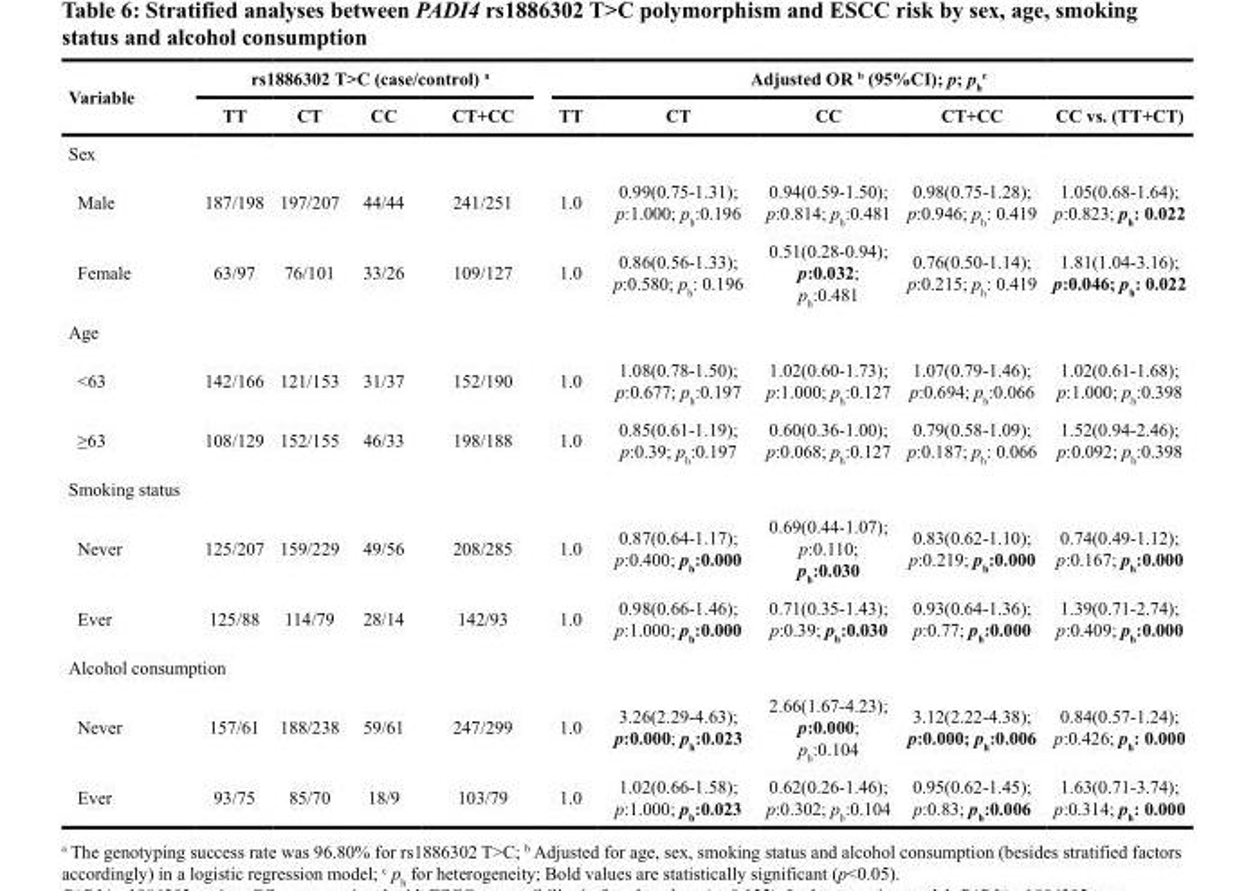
<table><thead><tr><td rowspan="2">Variable</td><td colspan="4">rs1886302 T&gt;C (case/control) <sup>a</sup></td><td colspan="5">Adjusted OR <sup>b</sup> (95%CI); p; p<sub>h</sub> <sup>c</sup></td></tr><tr><td>TT</td><td>CT</td><td>CC</td><td>CT+CC</td><td>TT</td><td>CT</td><td>CC</td><td>CT+CC</td><td>CC vs. (TT+CT)</td></tr></thead><tbody><tr><td colspan="10">Sex</td></tr><tr><td>Male</td><td>187/198</td><td>197/207</td><td>44/44</td><td>241/251</td><td>1.0</td><td>0.99(0.75-1.31); p:1.000; p<sub>h</sub>:0.196</td><td>0.94(0.59-1.50); p:0.814; p<sub>h</sub>:0.481</td><td>0.98(0.75-1.28); p:0.946; p<sub>h</sub>: 0.419</td><td>1.05(0.68-1.64); p:0.823; p<sub>h</sub>: 0.022</td></tr><tr><td>Female</td><td>63/97</td><td>76/101</td><td>33/26</td><td>109/127</td><td>1.0</td><td>0.86(0.56-1.33); p:0.580; p<sub>h</sub>: 0.196</td><td>0.51(0.28-0.94); p:0.032; p<sub>h</sub>:0.481</td><td>0.76(0.50-1.14); p:0.215; p<sub>h</sub>: 0.419</td><td>1.81(1.04-3.16); p:0.046; p<sub>h</sub>: 0.022</td></tr><tr><td colspan="10">Age</td></tr><tr><td>&lt;63</td><td>142/166</td><td>121/153</td><td>31/37</td><td>152/190</td><td>1.0</td><td>1.08(0.78-1.50); p:0.677; p<sub>h</sub>:0.197</td><td>1.02(0.60-1.73); p:1.000; p<sub>h</sub>:0.127</td><td>1.07(0.79-1.46); p:0.694; p<sub>h</sub>:0.066</td><td>1.02(0.61-1.68); p:1.000; p<sub>h</sub>:0.398</td></tr><tr><td>≥63</td><td>108/129</td><td>152/155</td><td>46/33</td><td>198/188</td><td>1.0</td><td>0.85(0.61-1.19); p:0.39; p<sub>h</sub>:0.197</td><td>0.60(0.36-1.00); p:0.068; p<sub>h</sub>:0.127</td><td>0.79(0.58-1.09); p:0.187; p<sub>h</sub>: 0.066</td><td>1.52(0.94-2.46); p:0.092; p<sub>h</sub>:0.398</td></tr><tr><td colspan="10">Smoking status</td></tr><tr><td>Never</td><td>125/207</td><td>159/229</td><td>49/56</td><td>208/285</td><td>1.0</td><td>0.87(0.64-1.17); p:0.400; p<sub>h</sub>:0.000</td><td>0.69(0.44-1.07); p:0.110; p<sub>h</sub>:0.030</td><td>0.83(0.62-1.10); p:0.219; p<sub>h</sub>:0.000</td><td>0.74(0.49-1.12); p:0.167; p<sub>h</sub>:0.000</td></tr><tr><td>Ever</td><td>125/88</td><td>114/79</td><td>28/14</td><td>142/93</td><td>1.0</td><td>0.98(0.66-1.46); p:1.000; p<sub>h</sub>:0.000</td><td>0.71(0.35-1.43); p:0.39; p<sub>h</sub>:0.030</td><td>0.93(0.64-1.36); p:0.77; p<sub>h</sub>:0.000</td><td>1.39(0.71-2.74); p:0.409; p<sub>h</sub>:0.000</td></tr><tr><td colspan="10">Alcohol consumption</td></tr><tr><td>Never</td><td>157/61</td><td>188/238</td><td>59/61</td><td>247/299</td><td>1.0</td><td>3.26(2.29-4.63); p:0.000; p<sub>h</sub>:0.023</td><td>2.66(1.67-4.23); p:0.000; p<sub>h</sub>:0.104</td><td>3.12(2.22-4.38); p:0.000; p<sub>h</sub>:0.006</td><td>0.84(0.57-1.24); p:0.426; p<sub>h</sub>: 0.000</td></tr><tr><td>Ever</td><td>93/75</td><td>85/70</td><td>18/9</td><td>103/79</td><td>1.0</td><td>1.02(0.66-1.58); p:1.000; p<sub>h</sub>:0.023</td><td>0.62(0.26-1.46); p:0.302; p<sub>h</sub>:0.104</td><td>0.95(0.62-1.45); p:0.83; p<sub>h</sub>:0.006</td><td>1.63(0.71-3.74); p:0.314; p<sub>h</sub>: 0.000</td></tr></tbody></table>